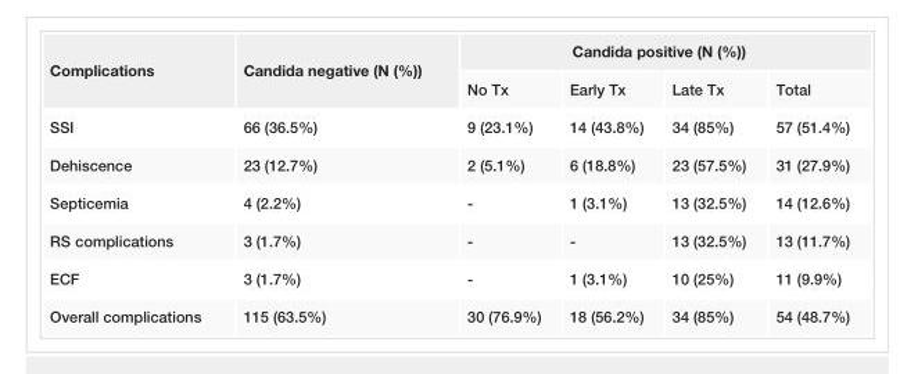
<table><tbody><tr><td rowspan="2">Complications</td><td rowspan="2">Candida negative (N (%))</td><td colspan="4">Candida positive (N (%))</td></tr><tr><td>No Tx</td><td>Early Tx</td><td>Late Tx</td><td>Total</td></tr><tr><td>SSI</td><td>66 (36.5%)</td><td>9 (23.1%)</td><td>14 (43.8%)</td><td>34 (85%)</td><td>57 (51.4%)</td></tr><tr><td>Dehiscence</td><td>23 (12.7%)</td><td>2 (5.1%)</td><td>6 (18.8%)</td><td>23 (57.5%)</td><td>31 (27.9%)</td></tr><tr><td>Septicemia</td><td>4 (2.2%)</td><td>-</td><td>1 (3.1%)</td><td>13 (32.5%)</td><td>14 (12.6%)</td></tr><tr><td>RS complications</td><td>3 (1.7%)</td><td>-</td><td>-</td><td>13 (32.5%)</td><td>13 (11.7%)</td></tr><tr><td>ECF</td><td>3 (1.7%)</td><td>-</td><td>1 (3.1%)</td><td>10 (25%)</td><td>11 (9.9%)</td></tr><tr><td>Overall complications</td><td>115 (63.5%)</td><td>30 (76.9%)</td><td>18 (56.2%)</td><td>34 (85%)</td><td>54 (48.7%)</td></tr></tbody></table>